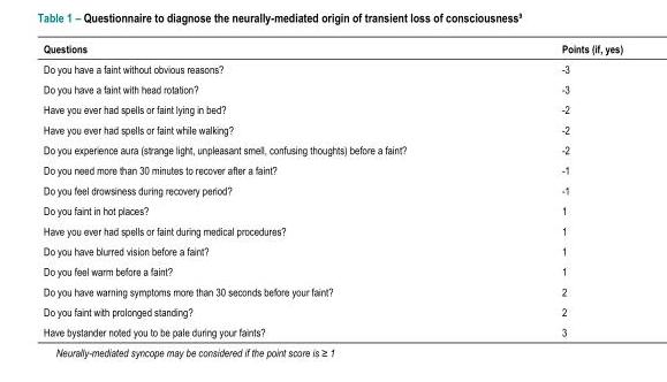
<table><thead><tr><td>Questions</td><td>Points (if, yes)</td></tr></thead><tbody><tr><td>Do you have a faint without obvious reasons?</td><td>-3</td></tr><tr><td>Do you have a faint with head rotation?</td><td>-3</td></tr><tr><td>Have you ever had spells or faint lying in bed?</td><td>-2</td></tr><tr><td>Have you ever had spells or faint while walking?</td><td>-2</td></tr><tr><td>Do you experience aura (strange light, unpleasant smell, confusing thoughts) before a faint?</td><td>-2</td></tr><tr><td>Do you need more than 30 minutes to recover after a faint?</td><td>-1</td></tr><tr><td>Do you feel drowsiness during recovery period?</td><td>-1</td></tr><tr><td>Do you faint in hot places?</td><td>1</td></tr><tr><td>Have you ever had spells or faint during medical procedures?</td><td>1</td></tr><tr><td>Do you have blurred vision before a faint?</td><td>1</td></tr><tr><td>Do you feel warm before a faint?</td><td>1</td></tr><tr><td>Do you have warning symptoms more than 30 seconds before your faint?</td><td>2</td></tr><tr><td>Do you faint with prolonged standing?</td><td>2</td></tr><tr><td>Have bystander noted you to be pale during your faints?</td><td>3</td></tr></tbody></table>